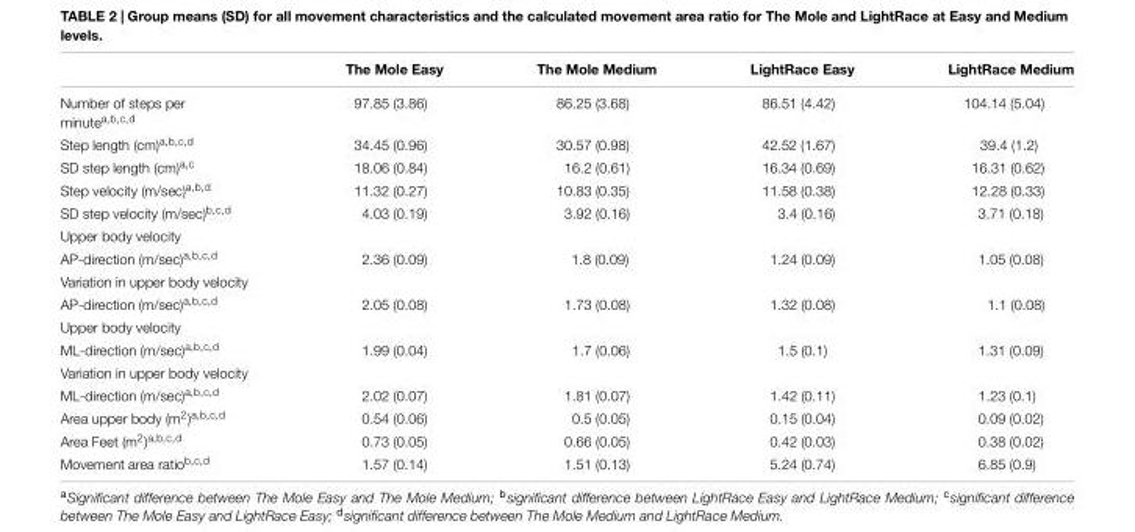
<table><thead><tr><td></td><td>The Mole Easy</td><td>The Mole Medium</td><td>LightRace Easy</td><td>LightRace Medium</td></tr></thead><tbody><tr><td>Number of steps per minute<sup>a,b,c,d</sup></td><td>97.85 (3.86)</td><td>86.25 (3.68)</td><td>86.51 (4.42)</td><td>104.14 (5.04)</td></tr><tr><td>Step length (cm)<sup>a,b,c,d</sup></td><td>34.45 (0.96)</td><td>30.57 (0.98)</td><td>42.52 (1.67)</td><td>39.4 (1.2)</td></tr><tr><td>SD step length (cm)<sup>a,c</sup></td><td>18.06 (0.84)</td><td>16.2 (0.61)</td><td>16.34 (0.69)</td><td>16.31 (0.62)</td></tr><tr><td>Step velocity (m/sec)<sup>a,b,d</sup></td><td>11.32 (0.27)</td><td>10.83 (0.35)</td><td>11.58 (0.38)</td><td>12.28 (0.33)</td></tr><tr><td>SD step velocity (m/sec)<sup>b,c,d</sup></td><td>4.03 (0.19)</td><td>3.92 (0.16)</td><td>3.4 (0.16)</td><td>3.71 (0.18)</td></tr><tr><td colspan="5">Upper body velocity</td></tr><tr><td>AP-direction (m/sec)<sup>a,b,c,d</sup></td><td>2.36 (0.09)</td><td>1.8 (0.09)</td><td>1.24 (0.09)</td><td>1.05 (0.08)</td></tr><tr><td colspan="5">Variation in upper body velocity</td></tr><tr><td>AP-direction (m/sec)<sup>a,b,c,d</sup></td><td>2.05 (0.08)</td><td>1.73 (0.08)</td><td>1.32 (0.08)</td><td>1.1 (0.08)</td></tr><tr><td colspan="5">Upper body velocity</td></tr><tr><td>ML-direction (m/sec)<sup>a,b,c,d</sup></td><td>1.99 (0.04)</td><td>1.7 (0.06)</td><td>1.5 (0.1)</td><td>1.31 (0.09)</td></tr><tr><td colspan="5">Variation in upper body velocity</td></tr><tr><td>ML-direction (m/sec)<sup>a,b,c,d</sup></td><td>2.02 (0.07)</td><td>1.81 (0.07)</td><td>1.42 (0.11)</td><td>1.23 (0.1)</td></tr><tr><td>Area upper body (m<sup>2</sup>)<sup>a,b,c,d</sup></td><td>0.54 (0.06)</td><td>0.5 (0.05)</td><td>0.15 (0.04)</td><td>0.09 (0.02)</td></tr><tr><td>Area Feet (m<sup>2</sup>)<sup>a,b,c,d</sup></td><td>0.73 (0.05)</td><td>0.66 (0.05)</td><td>0.42 (0.03)</td><td>0.38 (0.02)</td></tr><tr><td>Movement area ratio<sup>b,c,d</sup></td><td>1.57 (0.14)</td><td>1.51 (0.13)</td><td>5.24 (0.74)</td><td>6.85 (0.9)</td></tr></tbody></table>